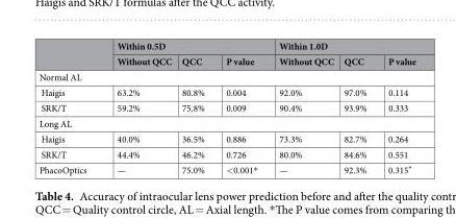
<table><thead><tr><td rowspan="2"></td><td colspan="3">Within 0.5D</td><td colspan="3">Within 1.0D</td></tr><tr><td>Without QCC</td><td>QCC</td><td>P value</td><td>Without QCC</td><td>QCC</td><td>P value</td></tr></thead><tbody><tr><td colspan="7">Normal AL</td></tr><tr><td>Haigis</td><td>63.2%</td><td>80.8%</td><td>0.004</td><td>92.0%</td><td>97.0%</td><td>0.114</td></tr><tr><td>SRK/T</td><td>59.2%</td><td>75.8%</td><td>0.009</td><td>90.4%</td><td>93.9%</td><td>0.333</td></tr><tr><td colspan="7">Long AL</td></tr><tr><td>Haigis</td><td>40.0%</td><td>36.5%</td><td>0.886</td><td>73.3%</td><td>82.7%</td><td>0.264</td></tr><tr><td>SRK/T</td><td>44.4%</td><td>46.2%</td><td>0.726</td><td>80.0%</td><td>84.6%</td><td>0.551</td></tr><tr><td>PhacoOptics</td><td>—</td><td>75.0%</td><td>&lt;0.001*</td><td>—</td><td>92.3%</td><td>0.315*</td></tr></tbody></table>